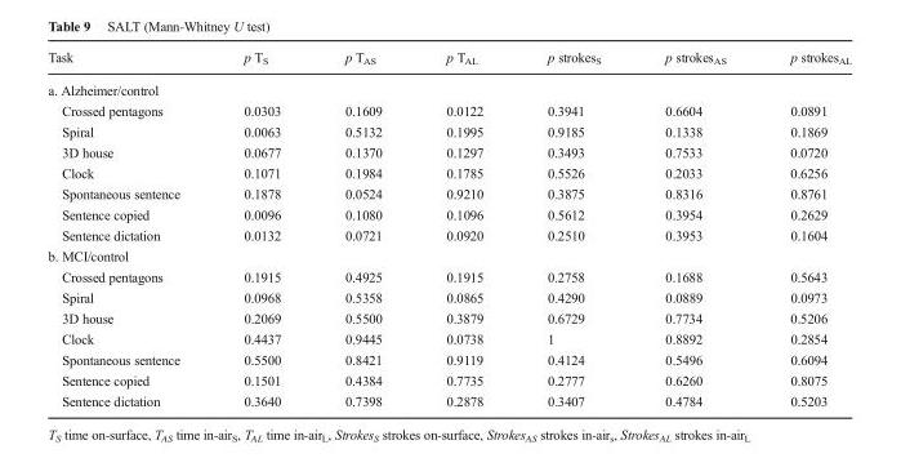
<table><thead><tr><td>Task</td><td>p T<sub>S</sub></td><td>p T<sub>AS</sub></td><td>p T<sub>AL</sub></td><td>p strokes<sub>S</sub></td><td>p strokes<sub>AS</sub></td><td>p strokes<sub>AL</sub></td></tr></thead><tbody><tr><td colspan="7">a. Alzheimer/control</td></tr><tr><td>Crossed pentagons</td><td>0.0303</td><td>0.1609</td><td>0.0122</td><td>0.3941</td><td>0.6604</td><td>0.0891</td></tr><tr><td>Spiral</td><td>0.0063</td><td>0.5132</td><td>0.1995</td><td>0.9185</td><td>0.1338</td><td>0.1869</td></tr><tr><td>3D house</td><td>0.0677</td><td>0.1370</td><td>0.1297</td><td>0.3493</td><td>0.7533</td><td>0.0720</td></tr><tr><td>Clock</td><td>0.1071</td><td>0.1984</td><td>0.1785</td><td>0.5526</td><td>0.2033</td><td>0.6256</td></tr><tr><td>Spontaneous sentence</td><td>0.1878</td><td>0.0524</td><td>0.9210</td><td>0.3875</td><td>0.8316</td><td>0.8761</td></tr><tr><td>Sentence copied</td><td>0.0096</td><td>0.1080</td><td>0.1096</td><td>0.5612</td><td>0.3954</td><td>0.2629</td></tr><tr><td>Sentence dictation</td><td>0.0132</td><td>0.0721</td><td>0.0920</td><td>0.2510</td><td>0.3953</td><td>0.1604</td></tr><tr><td colspan="7">b. MCI/control</td></tr><tr><td>Crossed pentagons</td><td>0.1915</td><td>0.4925</td><td>0.1915</td><td>0.2758</td><td>0.1688</td><td>0.5643</td></tr><tr><td>Spiral</td><td>0.0968</td><td>0.5358</td><td>0.0865</td><td>0.4290</td><td>0.0889</td><td>0.0973</td></tr><tr><td>3D house</td><td>0.2069</td><td>0.5500</td><td>0.3879</td><td>0.6729</td><td>0.7734</td><td>0.5206</td></tr><tr><td>Clock</td><td>0.4437</td><td>0.9445</td><td>0.0738</td><td>1</td><td>0.8892</td><td>0.2854</td></tr><tr><td>Spontaneous sentence</td><td>0.5500</td><td>0.8421</td><td>0.9119</td><td>0.4124</td><td>0.5496</td><td>0.6094</td></tr><tr><td>Sentence copied</td><td>0.1501</td><td>0.4384</td><td>0.7735</td><td>0.2777</td><td>0.6260</td><td>0.8075</td></tr><tr><td>Sentence dictation</td><td>0.3640</td><td>0.7398</td><td>0.2878</td><td>0.3407</td><td>0.4784</td><td>0.5203</td></tr></tbody></table>